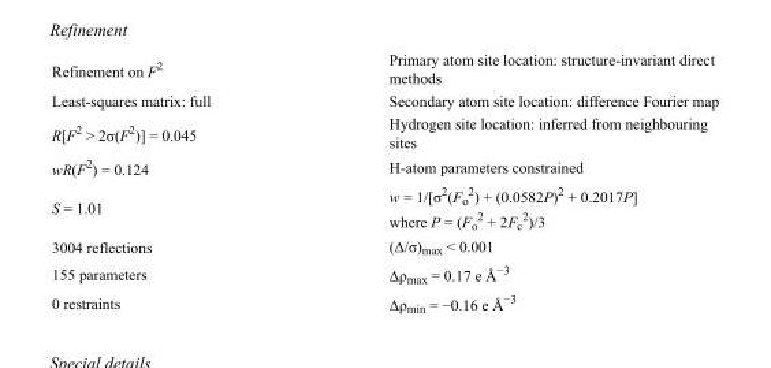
<table><tbody><tr><td>Refinement on F<sup>2</sup></td><td>Primary atom site location: structure-invariant direct methods</td></tr><tr><td>Least-squares matrix: full</td><td>Secondary atom site location: difference Fourier map</td></tr><tr><td>R[F<sup>2</sup> &gt; 2σ(F<sup>2</sup>)] = 0.045</td><td>Hydrogen site location: inferred from neighbouring sites</td></tr><tr><td>wR(F<sup>2</sup>) = 0.124</td><td>H-atom parameters constrained</td></tr><tr><td>S = 1.01</td><td>w = 1/[σ<sup>2</sup>(F<sub>o</sub> <sup>2</sup>) + (0.0582P)<sup>2</sup> + 0.2017P] where P = (F<sub>o</sub> <sup>2</sup> + 2F<sub>c</sub> <sup>2</sup>)/3</td></tr><tr><td>3004 reflections</td><td>(Δ/σ)<sub>max</sub> &lt; 0.001</td></tr><tr><td>155 parameters</td><td>Δρ<sub>max</sub> = 0.17 e Å<sup>−3</sup></td></tr><tr><td>0 restraints</td><td>Δρ<sub>min</sub> = −0.16 e Å<sup>−3</sup></td></tr></tbody></table>